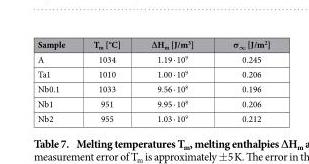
<table><thead><tr><td>Sample</td><td>T<sub>m</sub> [°C]</td><td>∆H<sub>m</sub> [J/m<sup>3</sup>]</td><td>σ<sub>∞</sub> [J/m<sup>2</sup>]</td></tr></thead><tbody><tr><td>A</td><td>1034</td><td>1.19 · 10<sup>9</sup></td><td>0.245</td></tr><tr><td>Ta1</td><td>1010</td><td>1.00 · 10<sup>9</sup></td><td>0.206</td></tr><tr><td>Nb0.1</td><td>1033</td><td>9.56 · 10<sup>8</sup></td><td>0.196</td></tr><tr><td>Nb1</td><td>951</td><td>9.95 · 10<sup>8</sup></td><td>0.206</td></tr><tr><td>Nb2</td><td>955</td><td>1.03 · 10<sup>9</sup></td><td>0.212</td></tr></tbody></table>